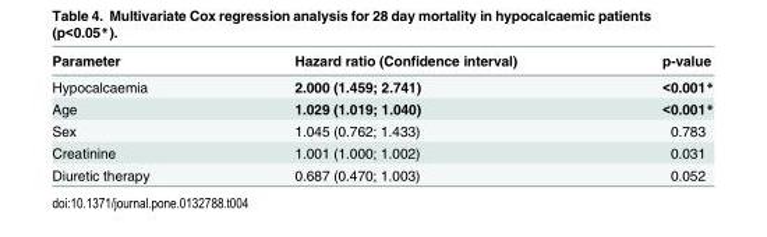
<table><thead><tr><td>Parameter</td><td>Hazard ratio (Confidence interval)</td><td>p-value</td></tr></thead><tbody><tr><td>Hypocalcaemia</td><td>2.000 (1.459; 2.741)</td><td>&lt;0.001*</td></tr><tr><td>Age</td><td>1.029 (1.019; 1.040)</td><td>&lt;0.001*</td></tr><tr><td>Sex</td><td>1.045 (0.762; 1.433)</td><td>0.783</td></tr><tr><td>Creatinine</td><td>1.001 (1.000; 1.002)</td><td>0.031</td></tr><tr><td>Diuretic therapy</td><td>0.687 (0.470; 1.003)</td><td>0.052</td></tr></tbody></table>